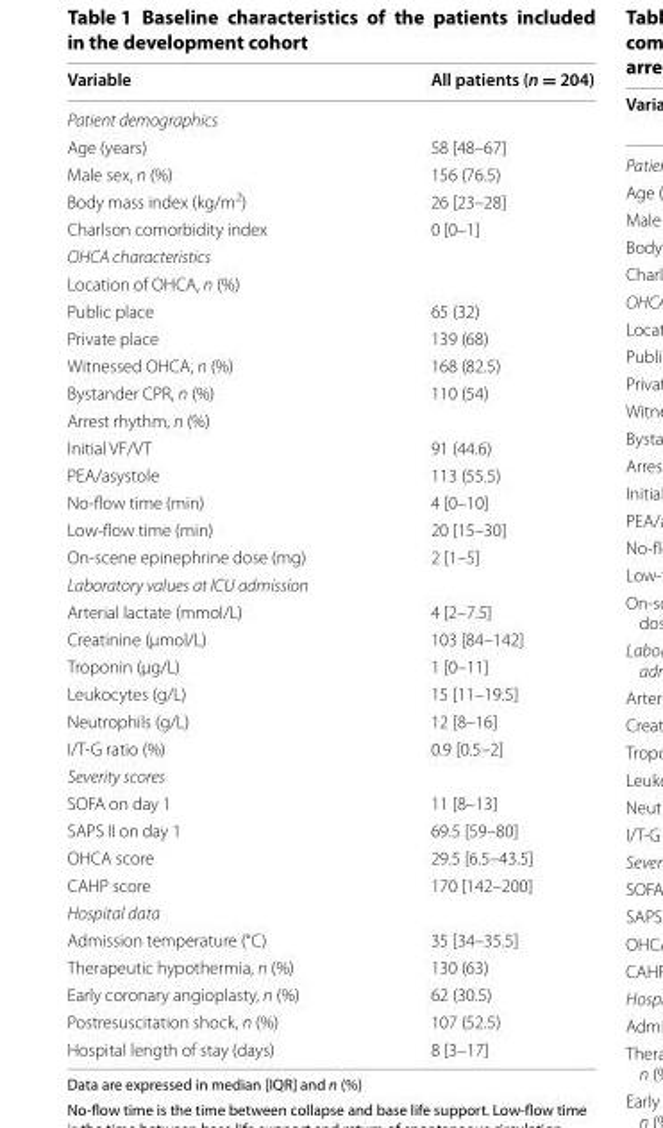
<table><thead><tr><td>Variable</td><td>All patients (n = 204)</td></tr></thead><tbody><tr><td colspan="2">Patient demographics</td></tr><tr><td>Age (years)</td><td>58 [48–67]</td></tr><tr><td>Male sex, n (%)</td><td>156 (76.5)</td></tr><tr><td>Body mass index (kg/m<sup>2</sup>)</td><td>26 [23–28]</td></tr><tr><td>Charlson comorbidity index</td><td>0 [0–1]</td></tr><tr><td colspan="2">OHCA characteristics</td></tr><tr><td colspan="2">Location of OHCA, n (%)</td></tr><tr><td>Public place</td><td>65 (32)</td></tr><tr><td>Private place</td><td>139 (68)</td></tr><tr><td>Witnessed OHCA, n (%)</td><td>168 (82.5)</td></tr><tr><td>Bystander CPR, n (%)</td><td>110 (54)</td></tr><tr><td colspan="2">Arrest rhythm, n (%)</td></tr><tr><td>Initial VF/VT</td><td>91 (44.6)</td></tr><tr><td>PEA/asystole</td><td>113 (55.5)</td></tr><tr><td>No‑flow time (min)</td><td>4 [0–10]</td></tr><tr><td>Low‑flow time (min)</td><td>20 [15–30]</td></tr><tr><td>On‑scene epinephrine dose (mg)</td><td>2 [1–5]</td></tr><tr><td colspan="2">Laboratory values at ICU admission</td></tr><tr><td>Arterial lactate (mmol/L)</td><td>4 [2–7.5]</td></tr><tr><td>Creatinine (µmol/L)</td><td>103 [84–142]</td></tr><tr><td>Troponin (µg/L)</td><td>1 [0–11]</td></tr><tr><td>Leukocytes (g/L)</td><td>15 [11–19.5]</td></tr><tr><td>Neutrophils (g/L)</td><td>12 [8–16]</td></tr><tr><td>I/T‑G ratio (%)</td><td>0.9 [0.5–2]</td></tr><tr><td colspan="2">Severity scores</td></tr><tr><td>SOFA on day 1</td><td>11 [8–13]</td></tr><tr><td>SAPS II on day 1</td><td>69.5 [59–80]</td></tr><tr><td>OHCA score</td><td>29.5 [6.5–43.5]</td></tr><tr><td>CAHP score</td><td>170 [142–200]</td></tr><tr><td colspan="2">Hospital data</td></tr><tr><td>Admission temperature (°C)</td><td>35 [34–35.5]</td></tr><tr><td>Therapeutic hypothermia, n (%)</td><td>130 (63)</td></tr><tr><td>Early coronary angioplasty, n (%)</td><td>62 (30.5)</td></tr><tr><td>Postresuscitation shock, n (%)</td><td>107 (52.5)</td></tr><tr><td>Hospital length of stay (days)</td><td>8 [3–17]</td></tr></tbody></table>